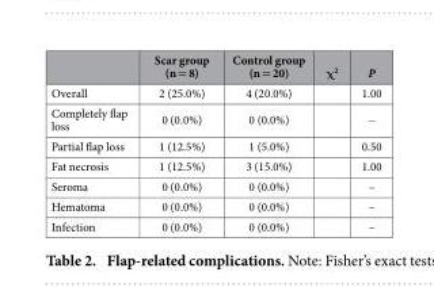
<table><thead><tr><td></td><td>Scar group (n = 8)</td><td>Control group (n = 20)</td><td>χ<sup>2</sup></td><td>P</td></tr></thead><tbody><tr><td>Overall</td><td>2 (25.0%)</td><td>4 (20.0%)</td><td></td><td>1.00</td></tr><tr><td>Completely flap loss</td><td>0 (0.0%)</td><td>0 (0.0%)</td><td></td><td>−</td></tr><tr><td>Partial flap loss</td><td>1 (12.5%)</td><td>1 (5.0%)</td><td></td><td>0.50</td></tr><tr><td>Fat necrosis</td><td>1 (12.5%)</td><td>3 (15.0%)</td><td></td><td>1.00</td></tr><tr><td>Seroma</td><td>0 (0.0%)</td><td>0 (0.0%)</td><td></td><td>–</td></tr><tr><td>Hematoma</td><td>0 (0.0%)</td><td>0 (0.0%)</td><td></td><td>–</td></tr><tr><td>Infection</td><td>0 (0.0%)</td><td>0 (0.0%)</td><td></td><td>–</td></tr></tbody></table>